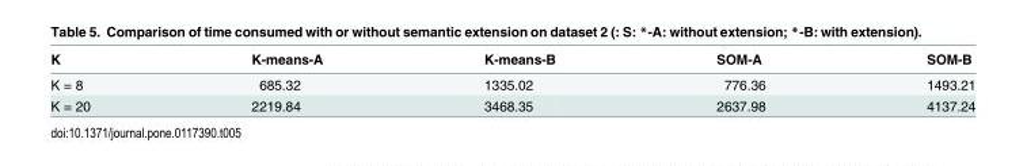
<table><thead><tr><td>K</td><td>K-means-A</td><td>K-means-B</td><td>SOM-A</td><td>SOM-B</td></tr></thead><tbody><tr><td>K = 8</td><td>685.32</td><td>1335.02</td><td>776.36</td><td>1493.21</td></tr><tr><td>K = 20</td><td>2219.84</td><td>3468.35</td><td>2637.98</td><td>4137.24</td></tr></tbody></table>